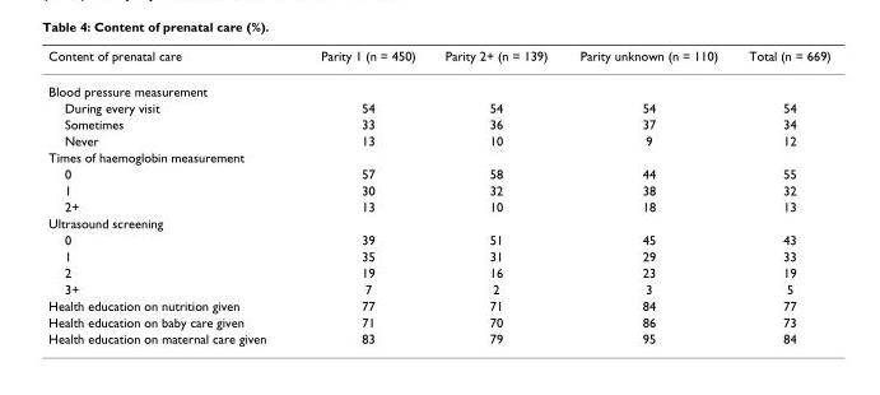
<table><thead><tr><td>Content of prenatal care</td><td>Parity 1 (n = 450)</td><td>Parity 2+ (n = 139)</td><td>Parity unknown (n = 110)</td><td>Total (n = 669)</td></tr></thead><tbody><tr><td colspan="5">Blood pressure measurement</td></tr><tr><td>During every visit</td><td>54</td><td>54</td><td>54</td><td>54</td></tr><tr><td>Sometimes</td><td>33</td><td>36</td><td>37</td><td>34</td></tr><tr><td>Never</td><td>13</td><td>10</td><td>9</td><td>12</td></tr><tr><td colspan="5">Times of haemoglobin measurement</td></tr><tr><td>0</td><td>57</td><td>58</td><td>44</td><td>55</td></tr><tr><td>1</td><td>30</td><td>32</td><td>38</td><td>32</td></tr><tr><td>2+</td><td>13</td><td>10</td><td>18</td><td>13</td></tr><tr><td colspan="5">Ultrasound screening</td></tr><tr><td>0</td><td>39</td><td>51</td><td>45</td><td>43</td></tr><tr><td>1</td><td>35</td><td>31</td><td>29</td><td>33</td></tr><tr><td>2</td><td>19</td><td>16</td><td>23</td><td>19</td></tr><tr><td>3+</td><td>7</td><td>2</td><td>3</td><td>5</td></tr><tr><td>Health education on nutrition given</td><td>77</td><td>71</td><td>84</td><td>77</td></tr><tr><td>Health education on baby care given</td><td>71</td><td>70</td><td>86</td><td>73</td></tr><tr><td>Health education on maternal care given</td><td>83</td><td>79</td><td>95</td><td>84</td></tr></tbody></table>